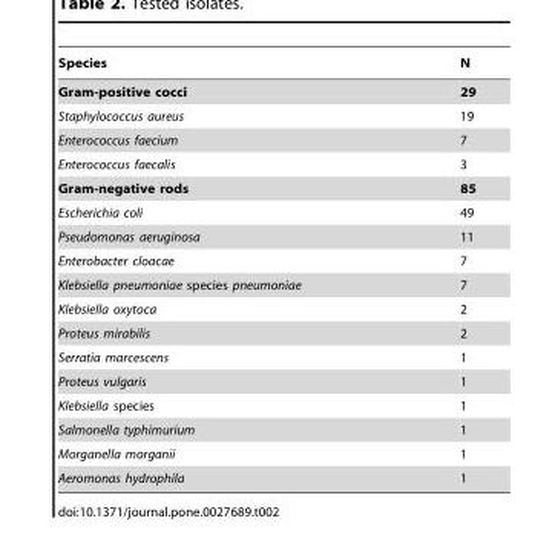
<table><thead><tr><td>Species</td><td>N</td></tr></thead><tbody><tr><td>Gram-positive cocci</td><td>29</td></tr><tr><td>Staphylococcus aureus</td><td>19</td></tr><tr><td>Enterococcus faecium</td><td>7</td></tr><tr><td>Enterococcus faecalis</td><td>3</td></tr><tr><td>Gram-negative rods</td><td>85</td></tr><tr><td>Escherichia coli</td><td>49</td></tr><tr><td>Pseudomonas aeruginosa</td><td>11</td></tr><tr><td>Enterobacter cloacae</td><td>7</td></tr><tr><td>Klebsiella pneumoniae species pneumoniae</td><td>7</td></tr><tr><td>Klebsiella oxytoca</td><td>2</td></tr><tr><td>Proteus mirabilis</td><td>2</td></tr><tr><td>Serratia marcescens</td><td>1</td></tr><tr><td>Proteus vulgaris</td><td>1</td></tr><tr><td>Klebsiella species</td><td>1</td></tr><tr><td>Salmonella typhimurium</td><td>1</td></tr><tr><td>Morganella morganii</td><td>1</td></tr><tr><td>Aeromonas hydrophila</td><td>1</td></tr></tbody></table>